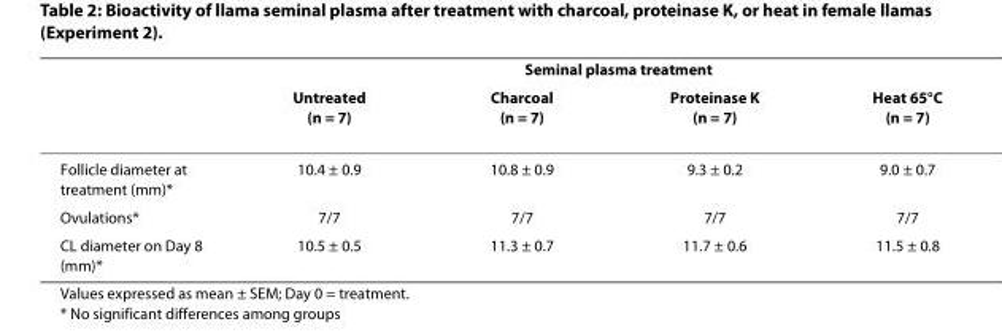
<table><thead><tr><td rowspan="2"></td><td colspan="4">Seminal plasma treatment</td></tr><tr><td>Untreated (n = 7)</td><td>Charcoal (n = 7)</td><td>Proteinase K (n = 7)</td><td>Heat 65°C (n = 7)</td></tr></thead><tbody><tr><td>Follicle diameter at treatment (mm)*</td><td>10.4 ± 0.9</td><td>10.8 ± 0.9</td><td>9.3 ± 0.2</td><td>9.0 ± 0.7</td></tr><tr><td>Ovulations*</td><td>7/7</td><td>7/7</td><td>7/7</td><td>7/7</td></tr><tr><td>CL diameter on Day 8 (mm)*</td><td>10.5 ± 0.5</td><td>11.3 ± 0.7</td><td>11.7 ± 0.6</td><td>11.5 ± 0.8</td></tr></tbody></table>